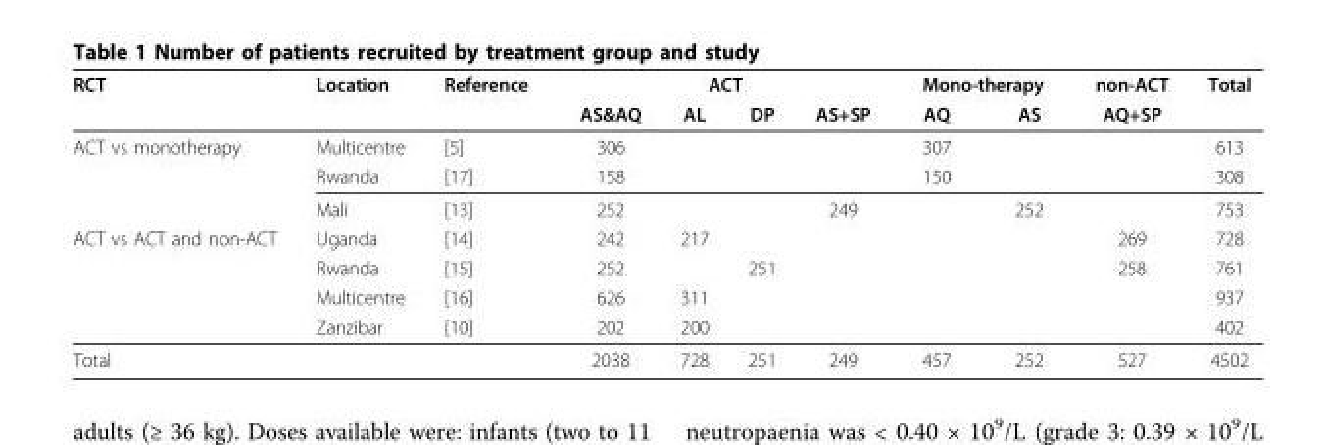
<table><thead><tr><td rowspan="2">RCT</td><td rowspan="2">Location</td><td rowspan="2">Reference</td><td colspan="4">ACT</td><td colspan="2">Mono-therapy</td><td rowspan="2">non-ACT AQ+SP</td><td rowspan="2">Total</td></tr><tr><td>AS&amp;AQ</td><td>AL</td><td>DP</td><td>AS+SP</td><td>AQ</td><td>AS</td></tr></thead><tbody><tr><td rowspan="3">ACT vs monotherapy</td><td>Multicentre</td><td>[5]</td><td>306</td><td></td><td></td><td></td><td>307</td><td></td><td></td><td>613</td></tr><tr><td>Rwanda</td><td>[17]</td><td>158</td><td></td><td></td><td></td><td>150</td><td></td><td></td><td>308</td></tr><tr><td>Mali</td><td>[13]</td><td>252</td><td></td><td></td><td>249</td><td></td><td>252</td><td></td><td>753</td></tr><tr><td rowspan="4">ACT vs ACT and non-ACT</td><td>Uganda</td><td>[14]</td><td>242</td><td>217</td><td></td><td></td><td></td><td></td><td>269</td><td>728</td></tr><tr><td>Rwanda</td><td>[15]</td><td>252</td><td></td><td>251</td><td></td><td></td><td></td><td>258</td><td>761</td></tr><tr><td>Multicentre</td><td>[16]</td><td>626</td><td>311</td><td></td><td></td><td></td><td></td><td></td><td>937</td></tr><tr><td>Zanzibar</td><td>[10]</td><td>202</td><td>200</td><td></td><td></td><td></td><td></td><td></td><td>402</td></tr><tr><td>Total</td><td></td><td></td><td>2038</td><td>728</td><td>251</td><td>249</td><td>457</td><td>252</td><td>527</td><td>4502</td></tr></tbody></table>